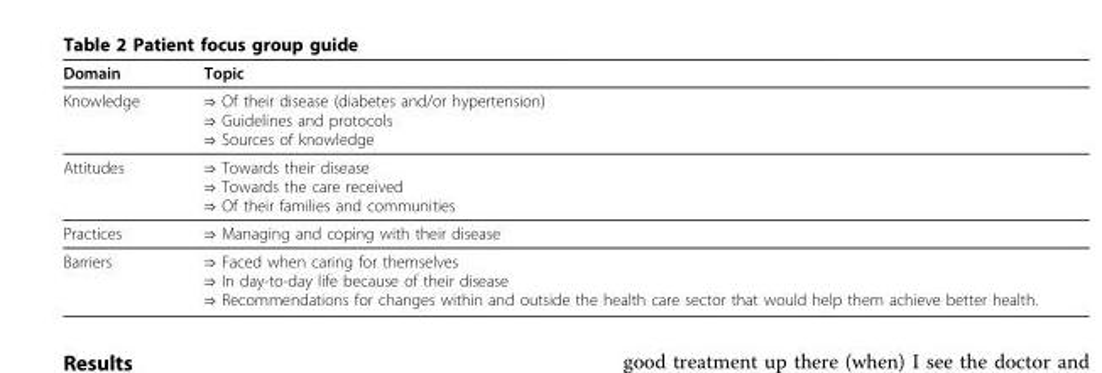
<table><thead><tr><td>Domain</td><td>Topic</td></tr></thead><tbody><tr><td>Knowledge</td><td>⇒ Of their disease (diabetes and/or hypertension) ⇒ Guidelines and protocols ⇒ Sources of knowledge</td></tr><tr><td>Attitudes</td><td>⇒ Towards their disease ⇒ Towards the care received ⇒ Of their families and communities</td></tr><tr><td>Practices</td><td>⇒ Managing and coping with their disease</td></tr><tr><td>Barriers</td><td>⇒ Faced when caring for themselves ⇒ In day-to-day life because of their disease ⇒ Recommendations for changes within and outside the health care sector that would help them achieve better health.</td></tr></tbody></table>